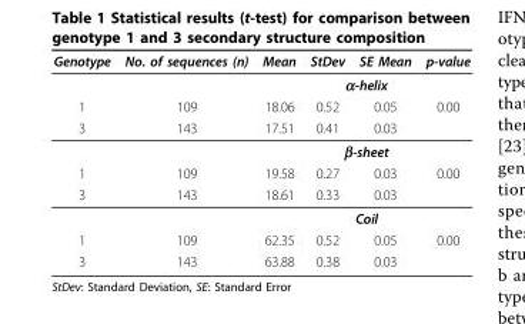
<table><thead><tr><td>Genotype</td><td>No. of sequences (n)</td><td>Mean</td><td>StDev</td><td>SE Mean</td><td>p-value</td></tr></thead><tbody><tr><td></td><td></td><td colspan="4">α-helix</td></tr><tr><td>1</td><td>109</td><td>18.06</td><td>0.52</td><td>0.05</td><td>0.00</td></tr><tr><td rowspan="2">3</td><td>143</td><td>17.51</td><td>0.41</td><td>0.03</td><td></td></tr><tr><td></td><td colspan="4">β-sheet</td></tr><tr><td>1</td><td>109</td><td>19.58</td><td>0.27</td><td>0.03</td><td>0.00</td></tr><tr><td rowspan="2">3</td><td>143</td><td>18.61</td><td>0.33</td><td>0.03</td><td></td></tr><tr><td></td><td colspan="4">Coil</td></tr><tr><td>1</td><td>109</td><td>62.35</td><td>0.52</td><td>0.05</td><td>0.00</td></tr><tr><td>3</td><td>143</td><td>63.88</td><td>0.38</td><td>0.03</td><td></td></tr></tbody></table>